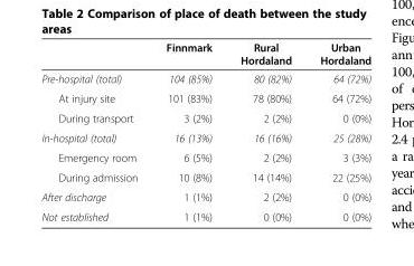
<table><thead><tr><td></td><td>Finnmark</td><td>Rural Hordaland</td><td>Urban Hordaland</td></tr></thead><tbody><tr><td>Pre-hospital (total)</td><td>104 (85%)</td><td>80 (82%)</td><td>64 (72%)</td></tr><tr><td>At injury site</td><td>101 (83%)</td><td>78 (80%)</td><td>64 (72%)</td></tr><tr><td>During transport</td><td>3 (2%)</td><td>2 (2%)</td><td>0 (0%)</td></tr><tr><td>In-hospital (total)</td><td>16 (13%)</td><td>16 (16%)</td><td>25 (28%)</td></tr><tr><td>Emergency room</td><td>6 (5%)</td><td>2 (2%)</td><td>3 (3%)</td></tr><tr><td>During admission</td><td>10 (8%)</td><td>14 (14%)</td><td>22 (25%)</td></tr><tr><td>After discharge</td><td>1 (1%)</td><td>2 (2%)</td><td>0 (0%)</td></tr><tr><td>Not established</td><td>1 (1%)</td><td>0 (0%)</td><td>0 (0%)</td></tr></tbody></table>